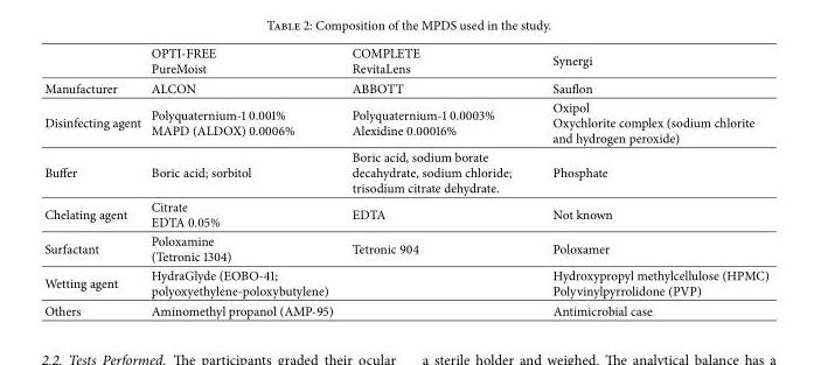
<table><thead><tr><td></td><td>OPTI-FREE PureMoist</td><td>COMPLETE RevitaLens</td><td>Synergi</td></tr></thead><tbody><tr><td>Manufacturer</td><td>ALCON</td><td>ABBOTT</td><td>Sauflon</td></tr><tr><td>Disinfecting agent</td><td>Polyquaternium-1 0.001% MAPD (ALDOX) 0.0006%</td><td>Polyquaternium-1 0.0003% Alexidine 0.00016%</td><td>Oxipol Oxychlorite complex (sodium chlorite and hydrogen peroxide)</td></tr><tr><td>Buffer</td><td>Boric acid; sorbitol</td><td>Boric acid, sodium borate decahydrate, sodium chloride; trisodium citrate dehydrate.</td><td>Phosphate</td></tr><tr><td>Chelating agent</td><td>Citrate EDTA 0.05%</td><td>EDTA</td><td>Not known</td></tr><tr><td>Surfactant</td><td>Poloxamine (Tetronic 1304)</td><td>Tetronic 904</td><td>Poloxamer</td></tr><tr><td>Wetting agent</td><td>HydraGlyde (EOBO-41; polyoxyethylene-poloxybutylene)</td><td></td><td>Hydroxypropyl methylcellulose (HPMC) Polyvinylpyrrolidone (PVP)</td></tr><tr><td>Others</td><td>Aminomethyl propanol (AMP-95)</td><td></td><td>Antimicrobial case</td></tr></tbody></table>